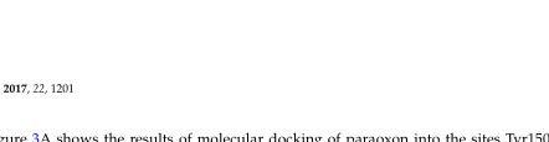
<table><thead><tr><td>Binding Site HSA(BSA)</td><td>Binding Parameters</td><td>HSA</td><td>BSA</td></tr></thead><tbody><tr><td rowspan="2">Tyr150 (149)</td><td>Kd, μM</td><td>4 ± 0.3</td><td>9 ± 0.7</td></tr><tr><td>dist(P-O), nm</td><td>0.36</td><td>0.37</td></tr><tr><td rowspan="2">1201 Tyr411 (410)</td><td>Kd, μM</td><td>87 ± 5</td><td>13 ± 1</td></tr><tr><td>dist(P-O), nm</td><td>0.37</td><td>0.35</td></tr></tbody></table>